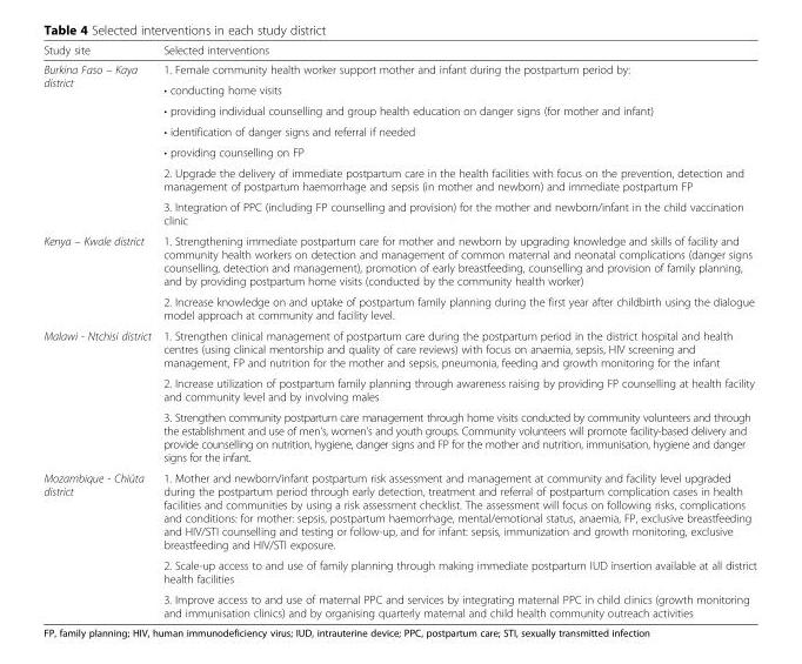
<table><thead><tr><td>Study site</td><td>Selected interventions</td></tr></thead><tbody><tr><td rowspan="7">Burkina Faso – Kaya district</td><td>1. Female community health worker support mother and infant during the postpartum period by:</td></tr><tr><td>• conducting home visits</td></tr><tr><td>• providing individual counselling and group health education on danger signs (for mother and infant)</td></tr><tr><td>• identification of danger signs and referral if needed</td></tr><tr><td>• providing counselling on FP</td></tr><tr><td>2. Upgrade the delivery of immediate postpartum care in the health facilities with focus on the prevention, detection and management of postpartum haemorrhage and sepsis (in mother and newborn) and immediate postpartum FP</td></tr><tr><td>3. Integration of PPC (including FP counselling and provision) for the mother and newborn/infant in the child vaccination clinic</td></tr><tr><td rowspan="2">Kenya – Kwale district</td><td>1. Strengthening immediate postpartum care for mother and newborn by upgrading knowledge and skills of facility and community health workers on detection and management of common maternal and neonatal complications (danger signs counselling, detection and management), promotion of early breastfeeding, counselling and provision of family planning, and by providing postpartum home visits (conducted by the community health worker)</td></tr><tr><td>2. Increase knowledge on and uptake of postpartum family planning during the first year after childbirth using the dialogue model approach at community and facility level.</td></tr><tr><td rowspan="3">Malawi - Ntchisi district</td><td>1. Strengthen clinical management of postpartum care during the postpartum period in the district hospital and health centres (using clinical mentorship and quality of care reviews) with focus on anaemia, sepsis, HIV screening and management, FP and nutrition for the mother and sepsis, pneumonia, feeding and growth monitoring for the infant</td></tr><tr><td>2. Increase utilization of postpartum family planning through awareness raising by providing FP counselling at health facility and community level and by involving males</td></tr><tr><td>3. Strengthen community postpartum care management through home visits conducted by community volunteers and through the establishment and use of men’s, women’s and youth groups. Community volunteers will promote facility-based delivery and provide counselling on nutrition, hygiene, danger signs and FP for the mother and nutrition, immunisation, hygiene and danger signs for the infant.</td></tr><tr><td rowspan="3">Mozambique - Chiúta district</td><td>1. Mother and newborn/infant postpartum risk assessment and management at community and facility level upgraded during the postpartum period through early detection, treatment and referral of postpartum complication cases in health facilities and communities by using a risk assessment checklist. The assessment will focus on following risks, complications and conditions: for mother: sepsis, postpartum haemorrhage, mental/emotional status, anaemia, FP, exclusive breastfeeding and HIV/STI counselling and testing or follow-up, and for infant: sepsis, immunization and growth monitoring, exclusive breastfeeding and HIV/STI exposure.</td></tr><tr><td>2. Scale-up access to and use of family planning through making immediate postpartum IUD insertion available at all district health facilities</td></tr><tr><td>3. Improve access to and use of maternal PPC and services by integrating maternal PPC in child clinics (growth monitoring and immunisation clinics) and by organising quarterly maternal and child health community outreach activities</td></tr></tbody></table>